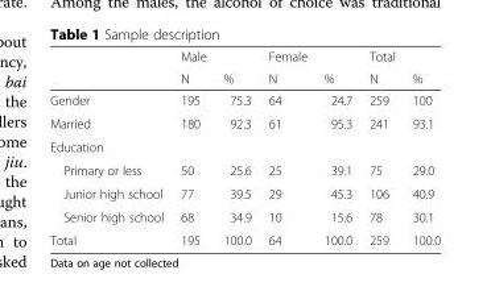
<table><thead><tr><td rowspan="2"></td><td rowspan="2">Male N</td><td rowspan="2">%</td><td rowspan="2">Female N</td><td rowspan="2">%</td><td rowspan="2">Total N</td><td rowspan="2">%</td></tr><tr></tr></thead><tbody><tr><td>Gender</td><td>195</td><td>75.3</td><td>64</td><td>24.7</td><td>259</td><td>100</td></tr><tr><td>Married</td><td>180</td><td>92.3</td><td>61</td><td>95.3</td><td>241</td><td>93.1</td></tr><tr><td colspan="7">Education</td></tr><tr><td>Primary or less</td><td>50</td><td>25.6</td><td>25</td><td>39.1</td><td>75</td><td>29.0</td></tr><tr><td>Junior high school</td><td>77</td><td>39.5</td><td>29</td><td>45.3</td><td>106</td><td>40.9</td></tr><tr><td>Senior high school</td><td>68</td><td>34.9</td><td>10</td><td>15.6</td><td>78</td><td>30.1</td></tr><tr><td>Total</td><td>195</td><td>100.0</td><td>64</td><td>100.0</td><td>259</td><td>100.0</td></tr></tbody></table>